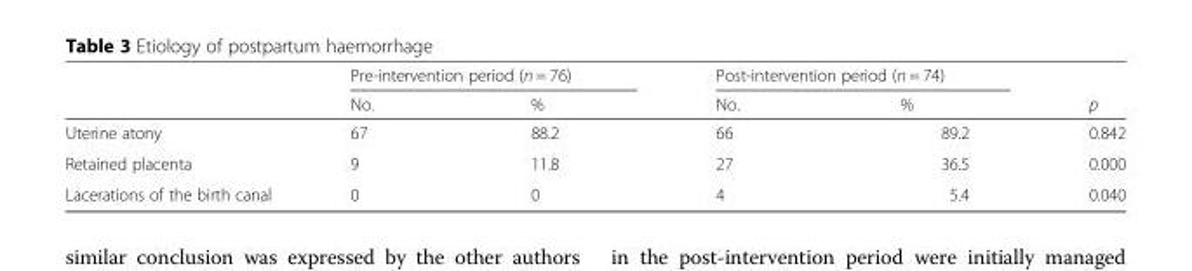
<table><thead><tr><td rowspan="2"></td><td colspan="2">Pre-intervention period (n = 76)</td><td colspan="2">Post-intervention period (n = 74)</td><td rowspan="2">p</td></tr><tr><td>No.</td><td>%</td><td>No.</td><td>%</td></tr></thead><tbody><tr><td>Uterine atony</td><td>67</td><td>88.2</td><td>66</td><td>89.2</td><td>0.842</td></tr><tr><td>Retained placenta</td><td>9</td><td>11.8</td><td>27</td><td>36.5</td><td>0.000</td></tr><tr><td>Lacerations of the birth canal</td><td>0</td><td>0</td><td>4</td><td>5.4</td><td>0.040</td></tr></tbody></table>